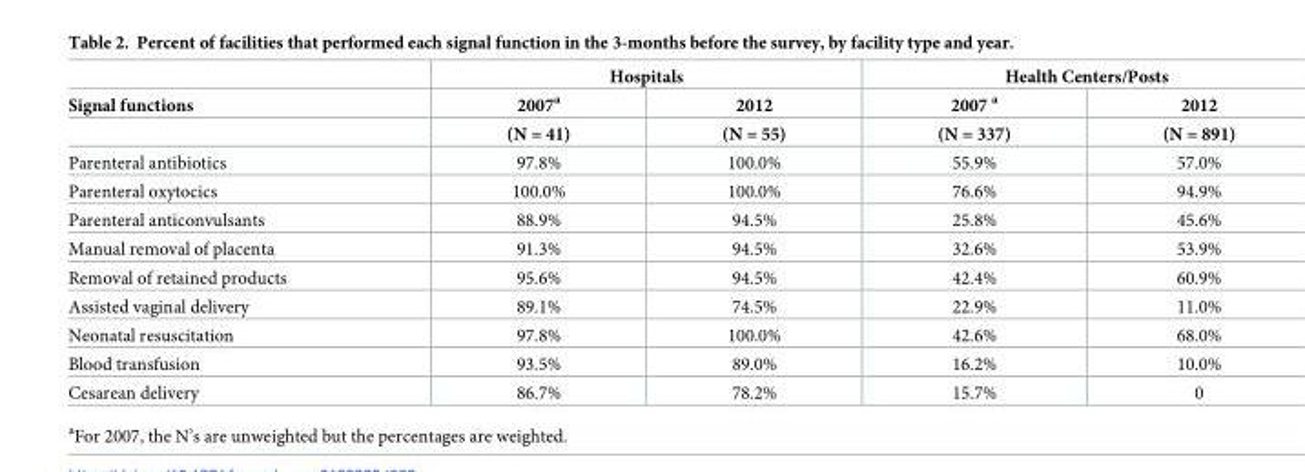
<table><thead><tr><td rowspan="3">Signal functions</td><td colspan="2">Hospitals</td><td colspan="2">Health Centers/Posts</td></tr><tr><td rowspan="2">2007<sup>a</sup> (N = 41)</td><td rowspan="2">2012 (N = 55)</td><td rowspan="2">2007 <sup>a</sup> (N = 337)</td><td rowspan="2">2012 (N = 891)</td></tr><tr></tr></thead><tbody><tr><td>Parenteral antibiotics</td><td>97.8%</td><td>100.0%</td><td>55.9%</td><td>57.0%</td></tr><tr><td>Parenteral oxytocics</td><td>100.0%</td><td>100.0%</td><td>76.6%</td><td>94.9%</td></tr><tr><td>Parenteral anticonvulsants</td><td>88.9%</td><td>94.5%</td><td>25.8%</td><td>45.6%</td></tr><tr><td>Manual removal of placenta</td><td>91.3%</td><td>94.5%</td><td>32.6%</td><td>53.9%</td></tr><tr><td>Removal of retained products</td><td>95.6%</td><td>94.5%</td><td>42.4%</td><td>60.9%</td></tr><tr><td>Assisted vaginal delivery</td><td>89.1%</td><td>74.5%</td><td>22.9%</td><td>11.0%</td></tr><tr><td>Neonatal resuscitation</td><td>97.8%</td><td>100.0%</td><td>42.6%</td><td>68.0%</td></tr><tr><td>Blood transfusion</td><td>93.5%</td><td>89.0%</td><td>16.2%</td><td>10.0%</td></tr><tr><td>Cesarean delivery</td><td>86.7%</td><td>78.2%</td><td>15.7%</td><td>0</td></tr></tbody></table>